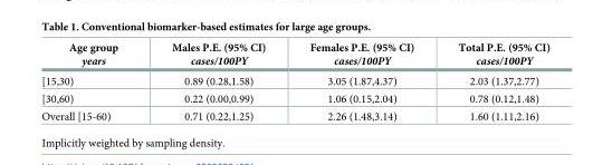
<table><thead><tr><td>Age group years</td><td>Males P.E. (95% CI) cases/100PY</td><td>Females P.E. (95% CI) cases/100PY</td><td>Total P.E. (95% CI) cases/100PY</td></tr></thead><tbody><tr><td>[15,30)</td><td>0.89 (0.28,1.58)</td><td>3.05 (1.87,4.37)</td><td>2.03 (1.37,2.77)</td></tr><tr><td>[30,60)</td><td>0.22 (0.00,0.99)</td><td>1.06 (0.15,2.04)</td><td>0.78 (0.12,1.48)</td></tr><tr><td>Overall [15-60)</td><td>0.71 (0.22,1.25)</td><td>2.26 (1.48,3.14)</td><td>1.60 (1.11,2.16)</td></tr></tbody></table>